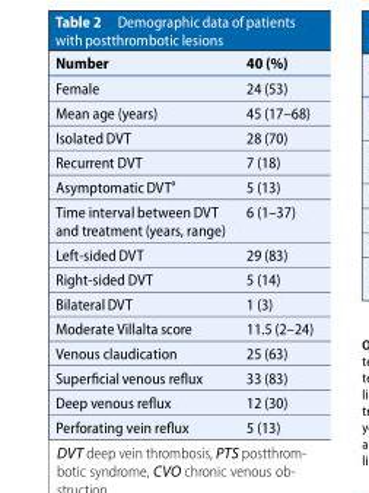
<table><thead><tr><td>Number</td><td>40 (%)</td></tr></thead><tbody><tr><td>Female</td><td>24 (53)</td></tr><tr><td>Mean age (years)</td><td>45 (17–68)</td></tr><tr><td>Isolated DVT</td><td>28 (70)</td></tr><tr><td>Recurrent DVT</td><td>7 (18)</td></tr><tr><td>AsymptomaticDVT <sup>a</sup></td><td>5 (13)</td></tr><tr><td>Time interval between DVT and treatment (years, range)</td><td>6 (1–37)</td></tr><tr><td>Left-sided DVT</td><td>29 (83)</td></tr><tr><td>Right-sided DVT</td><td>5 (14)</td></tr><tr><td>BilateralDVT</td><td>1 (3)</td></tr><tr><td>Moderate Villalta score</td><td>11.5 (2–24)</td></tr><tr><td>Venous claudication</td><td>25 (63)</td></tr><tr><td>Superficial venous reflux</td><td>33 (83)</td></tr><tr><td>Deep venous reflux</td><td>12 (30)</td></tr><tr><td>Perforating vein reflux</td><td>5 (13)</td></tr></tbody></table>